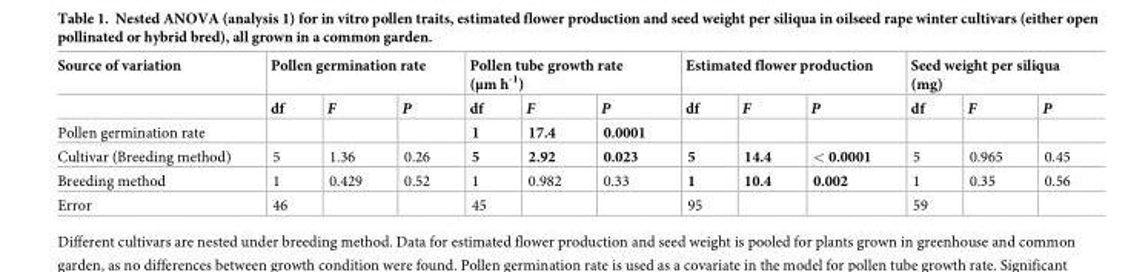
<table><thead><tr><td rowspan="2">Source of variation</td><td colspan="3">Pollen germination rate</td><td colspan="3">Pollen tube growth rate (μm h<sup>-1</sup>)</td><td colspan="3">Estimated flower production</td><td colspan="3">Seed weight per siliqua (mg)</td></tr><tr><td>df</td><td>F</td><td>P</td><td>df</td><td>F</td><td>P</td><td>df</td><td>F</td><td>P</td><td>df</td><td>F</td><td>P</td></tr></thead><tbody><tr><td>Pollen germination rate</td><td></td><td></td><td></td><td>1</td><td>17.4</td><td>0.0001</td><td></td><td></td><td></td><td></td><td></td><td></td></tr><tr><td>Cultivar (Breeding method)</td><td>5</td><td>1.36</td><td>0.26</td><td>5</td><td>2.92</td><td>0.023</td><td>5</td><td>14.4</td><td>&lt; 0.0001</td><td>5</td><td>0.965</td><td>0.45</td></tr><tr><td>Breeding method</td><td>1</td><td>0.429</td><td>0.52</td><td>1</td><td>0.982</td><td>0.33</td><td>1</td><td>10.4</td><td>0.002</td><td>1</td><td>0.35</td><td>0.56</td></tr><tr><td>Error</td><td>46</td><td></td><td></td><td>45</td><td></td><td></td><td>95</td><td></td><td></td><td>59</td><td></td><td></td></tr></tbody></table>